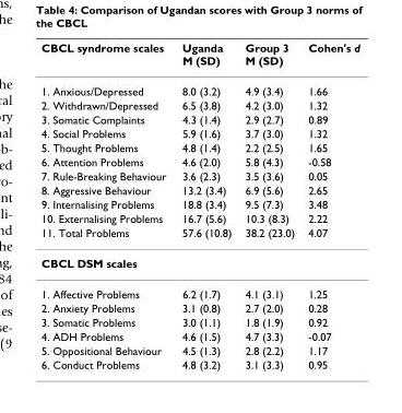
<table><thead><tr><td>CBCL syndrome scales</td><td>Uganda M (SD)</td><td>Group 3 M (SD)</td><td>Cohen&#x27;s d</td></tr></thead><tbody><tr><td>1. Anxious/Depressed</td><td>8.0 (3.2)</td><td>4.9 (3.4)</td><td>1.66</td></tr><tr><td>2. Withdrawn/Depressed</td><td>6.5 (3.8)</td><td>4.2 (3.0)</td><td>1.32</td></tr><tr><td>3. Somatic Complaints</td><td>4.3 (1.4)</td><td>2.9 (2.7)</td><td>0.89</td></tr><tr><td>4. Social Problems</td><td>5.9 (1.6)</td><td>3.7 (3.0)</td><td>1.32</td></tr><tr><td>5. Thought Problems</td><td>4.8 (1.4)</td><td>2.2 (2.5)</td><td>1.65</td></tr><tr><td>6. Attention Problems</td><td>4.6 (2.0)</td><td>5.8 (4.3)</td><td>-0.58</td></tr><tr><td>7. Rule-Breaking Behaviour</td><td>3.6 (2.3)</td><td>3.5 (3.6)</td><td>0.05</td></tr><tr><td>8. Aggressive Behaviour</td><td>13.2 (3.4)</td><td>6.9 (5.6)</td><td>2.65</td></tr><tr><td>9. Internalising Problems</td><td>18.8 (3.4)</td><td>9.5 (7.3)</td><td>3.48</td></tr><tr><td>10. Externalising Problems</td><td>16.7 (5.6)</td><td>10.3 (8.3)</td><td>2.22</td></tr><tr><td>11. Total Problems</td><td>57.6 (10.8)</td><td>38.2 (23.0)</td><td>4.07</td></tr><tr><td colspan="4">CBCL DSM scales</td></tr><tr><td>1. Affective Problems</td><td>6.2 (1.7)</td><td>4.1 (3.1)</td><td>1.25</td></tr><tr><td>2. Anxiety Problems</td><td>3.1 (0.8)</td><td>2.7 (2.0)</td><td>0.28</td></tr><tr><td>3. Somatic Problems</td><td>3.0 (1.1)</td><td>1.8 (1.9)</td><td>0.92</td></tr><tr><td>4. ADH Problems</td><td>4.6 (1.5)</td><td>4.7 (3.3)</td><td>-0.07</td></tr><tr><td>5. Oppositional Behaviour</td><td>4.5 (1.3)</td><td>2.8 (2.2)</td><td>1.17</td></tr><tr><td>6. Conduct Problems</td><td>4.8 (3.2)</td><td>3.1 (3.3)</td><td>0.95</td></tr></tbody></table>